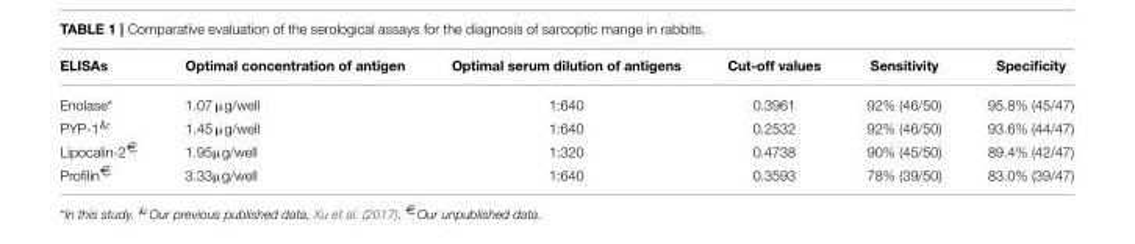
<table><thead><tr><td>ELISAs</td><td>Optimal concentration of antigen</td><td>Optimal serum dilution of antigens</td><td>Cut-off values</td><td>Sensitivity</td><td>Specificity</td></tr></thead><tbody><tr><td>Enolase*</td><td>1.07 µg/well</td><td>1:640</td><td>0.3961</td><td>92% (46/50)</td><td>95.8% (45/47)</td></tr><tr><td>PYP-1<sup>&amp;</sup></td><td>1.45 µg/well</td><td>1:640</td><td>0.2532</td><td>92% (46/50)</td><td>93.6% (44/47)</td></tr><tr><td>Lipocalin-2€</td><td>1.95µg/well</td><td>1:320</td><td>0.4738</td><td>90% (45/50)</td><td>89.4% (42/47)</td></tr><tr><td>Profilin€</td><td>3.33µg/well</td><td>1:640</td><td>0.3593</td><td>78% (39/50)</td><td>83.0% (39/47)</td></tr></tbody></table>